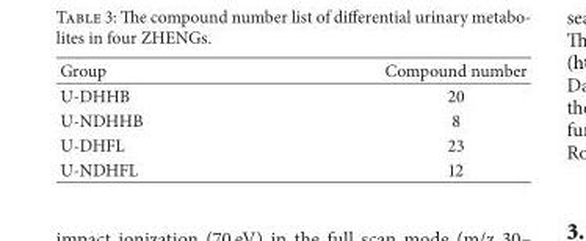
<table><thead><tr><td>Group</td><td>Compound number</td></tr></thead><tbody><tr><td>U-DHHB</td><td>20</td></tr><tr><td>U-NDHHB</td><td>8</td></tr><tr><td>U-DHFL</td><td>23</td></tr><tr><td>U-NDHFL</td><td>12</td></tr></tbody></table>